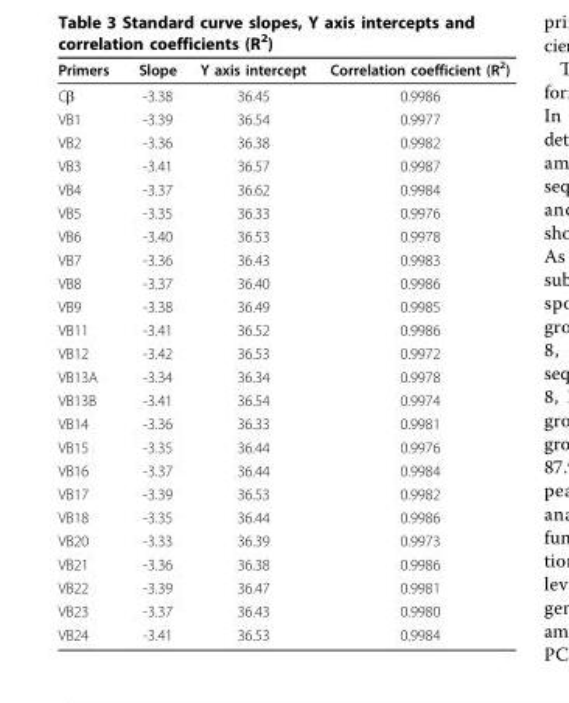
<table><thead><tr><td>Primers</td><td>Slope</td><td>Y axis intercept</td><td>Correlation coefficient (R<sup>2</sup>)</td></tr></thead><tbody><tr><td>Cβ</td><td>-3.38</td><td>36.45</td><td>0.9986</td></tr><tr><td>VB1</td><td>-3.39</td><td>36.54</td><td>0.9977</td></tr><tr><td>VB2</td><td>-3.36</td><td>36.38</td><td>0.9982</td></tr><tr><td>VB3</td><td>-3.41</td><td>36.57</td><td>0.9987</td></tr><tr><td>VB4</td><td>-3.37</td><td>36.62</td><td>0.9984</td></tr><tr><td>VB5</td><td>-3.35</td><td>36.33</td><td>0.9976</td></tr><tr><td>VB6</td><td>-3.40</td><td>36.53</td><td>0.9978</td></tr><tr><td>VB7</td><td>-3.36</td><td>36.43</td><td>0.9983</td></tr><tr><td>VB8</td><td>-3.37</td><td>36.40</td><td>0.9986</td></tr><tr><td>VB9</td><td>-3.38</td><td>36.49</td><td>0.9985</td></tr><tr><td>VB11</td><td>-3.41</td><td>36.52</td><td>0.9986</td></tr><tr><td>VB12</td><td>-3.42</td><td>36.53</td><td>0.9972</td></tr><tr><td>VB13A</td><td>-3.34</td><td>36.34</td><td>0.9978</td></tr><tr><td>VB13B</td><td>-3.41</td><td>36.54</td><td>0.9974</td></tr><tr><td>VB14</td><td>-3.36</td><td>36.33</td><td>0.9981</td></tr><tr><td>VB15</td><td>-3.35</td><td>36.44</td><td>0.9976</td></tr><tr><td>VB16</td><td>-3.37</td><td>36.44</td><td>0.9984</td></tr><tr><td>VB17</td><td>-3.39</td><td>36.53</td><td>0.9982</td></tr><tr><td>VB18</td><td>-3.35</td><td>36.44</td><td>0.9986</td></tr><tr><td>VB20</td><td>-3.33</td><td>36.39</td><td>0.9973</td></tr><tr><td>VB21</td><td>-3.36</td><td>36.38</td><td>0.9986</td></tr><tr><td>VB22</td><td>-3.39</td><td>36.47</td><td>0.9981</td></tr><tr><td>VB23</td><td>-3.37</td><td>36.43</td><td>0.9980</td></tr><tr><td>VB24</td><td>-3.41</td><td>36.53</td><td>0.9984</td></tr></tbody></table>